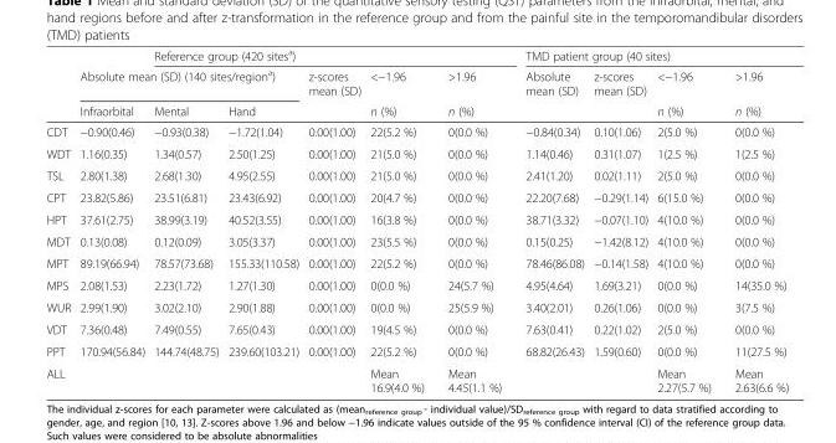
<table><thead><tr><td rowspan="3"></td><td></td><td colspan="5">Reference group (420 sites<sup>a</sup>)</td><td colspan="4">TMD patient group (40 sites)</td></tr><tr><td colspan="3">Absolute mean (SD) (140 sites/region<sup>a</sup>)</td><td rowspan="2">z-scores mean (SD)</td><td rowspan="2">&lt;−1.96 n (%)</td><td rowspan="2">&gt;1.96 n (%)</td><td rowspan="2">Absolute mean (SD)</td><td rowspan="2">z-scores mean (SD)</td><td rowspan="2">&lt;−1.96 n (%)</td><td rowspan="2">&gt;1.96 n (%)</td></tr><tr><td>Infraorbital</td><td>Mental</td><td>Hand</td></tr></thead><tbody><tr><td>CDT</td><td>−0.90(0.46)</td><td>−0.93(0.38)</td><td>−1.72(1.04)</td><td>0.00(1.00)</td><td>22(5.2 %)</td><td>0(0.0 %)</td><td>−0.84(0.34)</td><td>0.10(1.06)</td><td>2(5.0 %)</td><td>0(0.0 %)</td></tr><tr><td>WDT</td><td>1.16(0.35)</td><td>1.34(0.57)</td><td>2.50(1.25)</td><td>0.00(1.00)</td><td>21(5.0 %)</td><td>0(0.0 %)</td><td>1.14(0.46)</td><td>0.31(1.07)</td><td>1(2.5 %)</td><td>1(2.5 %)</td></tr><tr><td>TSL</td><td>2.80(1.38)</td><td>2.68(1.30)</td><td>4.95(2.55)</td><td>0.00(1.00)</td><td>21(5.0 %)</td><td>0(0.0 %)</td><td>2.41(1.20)</td><td>0.02(1.11)</td><td>2(5.0 %)</td><td>0(0.0 %)</td></tr><tr><td>CPT</td><td>23.82(5.86)</td><td>23.51(6.81)</td><td>23.43(6.92)</td><td>0.00(1.00)</td><td>20(4.7 %)</td><td>0(0.0 %)</td><td>22.20(7.68)</td><td>−0.29(1.14)</td><td>6(15.0 %)</td><td>0(0.0 %)</td></tr><tr><td>HPT</td><td>37.61(2.75)</td><td>38.99(3.19)</td><td>40.52(3.55)</td><td>0.00(1.00)</td><td>16(3.8 %)</td><td>0(0.0 %)</td><td>38.71(3.32)</td><td>−0.07(1.10)</td><td>4(10.0 %)</td><td>0(0.0 %)</td></tr><tr><td>MDT</td><td>0.13(0.08)</td><td>0.12(0.09)</td><td>3.05(3.37)</td><td>0.00(1.00)</td><td>23(5.5 %)</td><td>0(0.0 %)</td><td>0.15(0.25)</td><td>−1.42(8.12)</td><td>4(10.0 %)</td><td>0(0.0 %)</td></tr><tr><td>MPT</td><td>89.19(66.94)</td><td>78.57(73.68)</td><td>155.33(110.58)</td><td>0.00(1.00)</td><td>22(5.2 %)</td><td>0(0.0 %)</td><td>78.46(86.08)</td><td>−0.14(1.58)</td><td>4(10.0 %)</td><td>0(0.0 %)</td></tr><tr><td>MPS</td><td>2.08(1.53)</td><td>2.23(1.72)</td><td>1.27(1.30)</td><td>0.00(1.00)</td><td>0(0.0 %)</td><td>24(5.7 %)</td><td>4.95(4.64)</td><td>1.69(3.21)</td><td>0(0.0 %)</td><td>14(35.0 %)</td></tr><tr><td>WUR</td><td>2.99(1.90)</td><td>3.02(2.10)</td><td>2.90(1.88)</td><td>0.00(1.00)</td><td>0(0.0 %)</td><td>25(5.9 %)</td><td>3.40(2.01)</td><td>0.26(1.06)</td><td>0(0.0 %)</td><td>3(7.5 %)</td></tr><tr><td>VDT</td><td>7.36(0.48)</td><td>7.49(0.55)</td><td>7.65(0.43)</td><td>0.00(1.00)</td><td>19(4.5 %)</td><td>0(0.0 %)</td><td>7.63(0.41)</td><td>0.22(1.02)</td><td>2(5.0 %)</td><td>0(0.0 %)</td></tr><tr><td>PPT</td><td>170.94(56.84)</td><td>144.74(48.75)</td><td>239.60(103.21)</td><td>0.00(1.00)</td><td>22(5.2 %)</td><td>0(0.0 %)</td><td>68.82(26.43)</td><td>1.59(0.60)</td><td>0(0.0 %)</td><td>11(27.5 %)</td></tr><tr><td>ALL</td><td colspan="3"></td><td></td><td>Mean 16.9(4.0 %)</td><td>Mean 4.45(1.1 %)</td><td></td><td></td><td>Mean 2.27(5.7 %)</td><td>Mean 2.63(6.6 %)</td></tr></tbody></table>